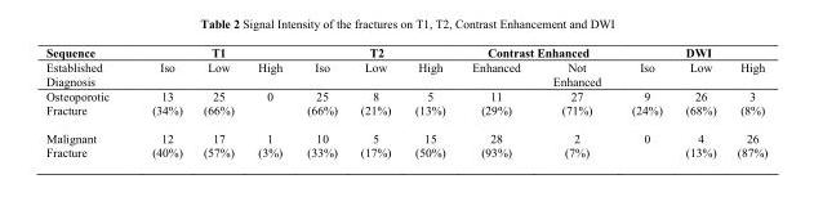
<table><thead><tr><td rowspan="2">Sequence Established Diagnosis</td><td colspan="3">T1</td><td colspan="3">T2</td><td colspan="2">Contrast Enhanced</td><td colspan="3">DWI</td></tr><tr><td>Iso</td><td>Low</td><td>High</td><td>Iso</td><td>Low</td><td>High</td><td>Enhanced</td><td>Not Enhanced</td><td>Iso</td><td>Low</td><td>High</td></tr></thead><tbody><tr><td>Osteoporotic Fracture</td><td>13 (34%)</td><td>25 (66%)</td><td>0</td><td>25 (66%)</td><td>8 (21%)</td><td>5 (13%)</td><td>11 (29%)</td><td>27 (71%)</td><td>9 (24%)</td><td>26 (68%)</td><td>3 (8%)</td></tr><tr><td>Malignant Fracture</td><td>12 (40%)</td><td>17 (57%)</td><td>1 (3%)</td><td>10 (33%)</td><td>5 (17%)</td><td>15 (50%)</td><td>28 (93%)</td><td>2 (7%)</td><td>0</td><td>4 (13%)</td><td>26 (87%)</td></tr></tbody></table>